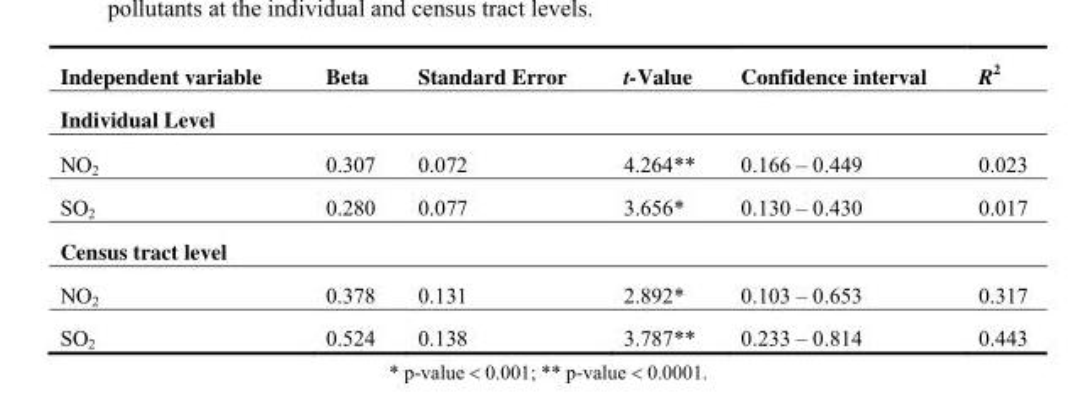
<table><thead><tr><td>Independent variable</td><td>Beta</td><td>Standard Error</td><td>t-Value</td><td>Confidence interval</td><td>R<sup>2</sup></td></tr></thead><tbody><tr><td colspan="6">Individual Level</td></tr><tr><td>NO<sub>2</sub></td><td>0.307</td><td>0.072</td><td>4.264**</td><td>0.166 – 0.449</td><td>0.023</td></tr><tr><td>SO<sub>2</sub></td><td>0.280</td><td>0.077</td><td>3.656*</td><td>0.130 – 0.430</td><td>0.017</td></tr><tr><td colspan="6">Census tract level</td></tr><tr><td>NO<sub>2</sub></td><td>0.378</td><td>0.131</td><td>2.892*</td><td>0.103 – 0.653</td><td>0.317</td></tr><tr><td>SO<sub>2</sub></td><td>0.524</td><td>0.138</td><td>3.787**</td><td>0.233 – 0.814</td><td>0.443</td></tr></tbody></table>